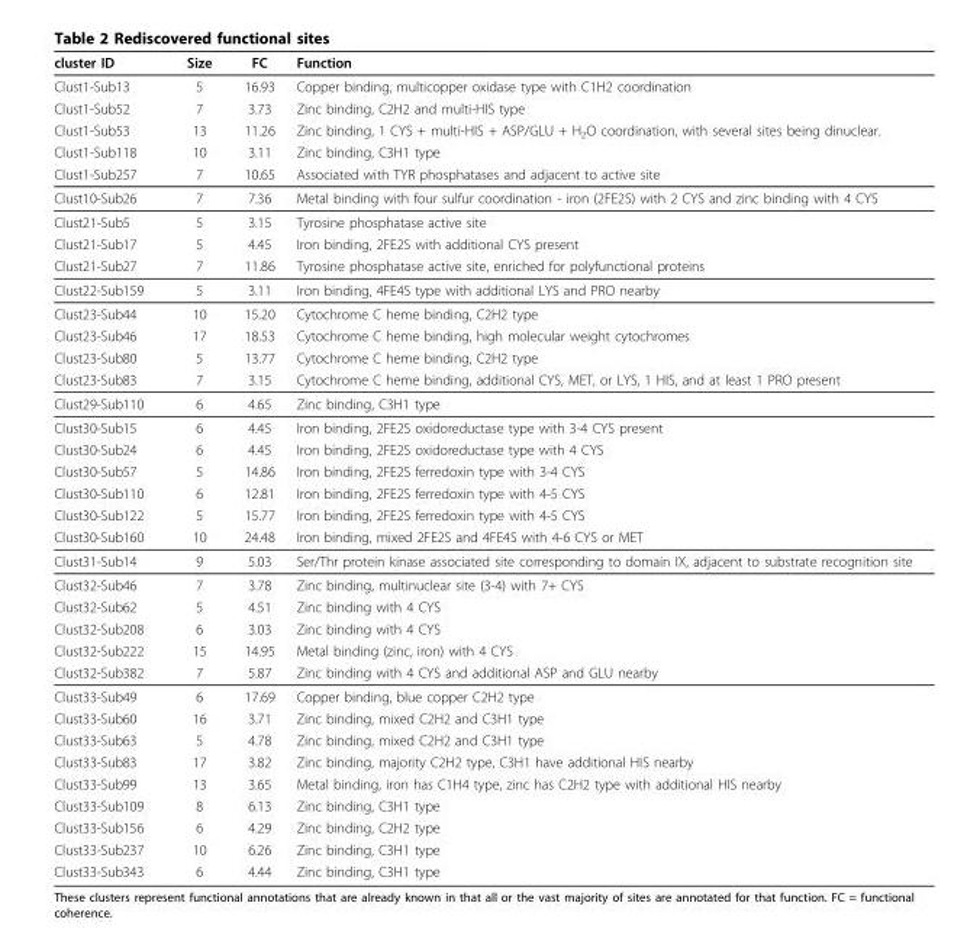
<table><thead><tr><td>cluster ID</td><td>Size</td><td>FC</td><td>Function</td></tr></thead><tbody><tr><td>Clust1-Sub13</td><td>5</td><td>16.93</td><td>Copper binding, multicopper oxidase type with C1H2 coordination</td></tr><tr><td>Clust1-Sub52</td><td>7</td><td>3.73</td><td>Zinc binding, C2H2 and multi-HIS type</td></tr><tr><td>Clust1-Sub53</td><td>13</td><td>11.26</td><td>Zinc binding, 1 CYS + multi-HIS + ASP/GLU + H<sub>2</sub>O coordination, with several sites being dinuclear.</td></tr><tr><td>Clust1-Sub118</td><td>10</td><td>3.11</td><td>Zinc binding, C3H1 type</td></tr><tr><td>Clust1-Sub257</td><td>7</td><td>10.65</td><td>Associated with TYR phosphatases and adjacent to active site</td></tr><tr><td>Clust10-Sub26</td><td>7</td><td>7.36</td><td>Metal binding with four sulfur coordination - iron (2FE2S) with 2 CYS and zinc binding with 4 CYS</td></tr><tr><td>Clust21-Sub5</td><td>5</td><td>3.15</td><td>Tyrosine phosphatase active site</td></tr><tr><td>Clust21-Sub17</td><td>5</td><td>4.45</td><td>Iron binding, 2FE2S with additional CYS present</td></tr><tr><td>Clust21-Sub27</td><td>7</td><td>11.86</td><td>Tyrosine phosphatase active site, enriched for polyfunctional proteins</td></tr><tr><td>Clust22-Sub159</td><td>5</td><td>3.11</td><td>Iron binding, 4FE4S type with additional LYS and PRO nearby</td></tr><tr><td>Clust23-Sub44</td><td>10</td><td>15.20</td><td>Cytochrome C heme binding, C2H2 type</td></tr><tr><td>Clust23-Sub46</td><td>17</td><td>18.53</td><td>Cytochrome C heme binding, high molecular weight cytochromes</td></tr><tr><td>Clust23-Sub80</td><td>5</td><td>13.77</td><td>Cytochrome C heme binding, C2H2 type</td></tr><tr><td>Clust23-Sub83</td><td>7</td><td>3.15</td><td>Cytochrome C heme binding, additional CYS, MET, or LYS, 1 HIS, and at least 1 PRO present</td></tr><tr><td>Clust29-Sub110</td><td>6</td><td>4.65</td><td>Zinc binding, C3H1 type</td></tr><tr><td>Clust30-Sub15</td><td>6</td><td>4.45</td><td>Iron binding, 2FE2S oxidoreductase type with 3-4 CYS present</td></tr><tr><td>Clust30-Sub24</td><td>6</td><td>4.45</td><td>Iron binding, 2FE2S oxidoreductase type with 4 CYS</td></tr><tr><td>Clust30-Sub57</td><td>5</td><td>14.86</td><td>Iron binding, 2FE2S ferredoxin type with 3-4 CYS</td></tr><tr><td>Clust30-Sub110</td><td>6</td><td>12.81</td><td>Iron binding, 2FE2S ferredoxin type with 4-5 CYS</td></tr><tr><td>Clust30-Sub122</td><td>5</td><td>15.77</td><td>Iron binding, 2FE2S ferredoxin type with 4-5 CYS</td></tr><tr><td>Clust30-Sub160</td><td>10</td><td>24.48</td><td>Iron binding, mixed 2FE2S and 4FE4S with 4-6 CYS or MET</td></tr><tr><td>Clust31-Sub14</td><td>9</td><td>5.03</td><td>Ser/Thr protein kinase associated site corresponding to domain IX, adjacent to substrate recognition site</td></tr><tr><td>Clust32-Sub46</td><td>7</td><td>3.78</td><td>Zinc binding, multinuclear site (3-4) with 7+ CYS</td></tr><tr><td>Clust32-Sub62</td><td>5</td><td>4.51</td><td>Zinc binding with 4 CYS</td></tr><tr><td>Clust32-Sub208</td><td>6</td><td>3.03</td><td>Zinc binding with 4 CYS</td></tr><tr><td>Clust32-Sub222</td><td>15</td><td>14.95</td><td>Metal binding (zinc, iron) with 4 CYS</td></tr><tr><td>Clust32-Sub382</td><td>7</td><td>5.87</td><td>Zinc binding with 4 CYS and additional ASP and GLU nearby</td></tr><tr><td>Clust33-Sub49</td><td>6</td><td>17.69</td><td>Copper binding, blue copper C2H2 type</td></tr><tr><td>Clust33-Sub60</td><td>16</td><td>3.71</td><td>Zinc binding, mixed C2H2 and C3H1 type</td></tr><tr><td>Clust33-Sub63</td><td>5</td><td>4.78</td><td>Zinc binding, mixed C2H2 and C3H1 type</td></tr><tr><td>Clust33-Sub83</td><td>17</td><td>3.82</td><td>Zinc binding, majority C2H2 type, C3H1 have additional HIS nearby</td></tr><tr><td>Clust33-Sub99</td><td>13</td><td>3.65</td><td>Metal binding, iron has C1H4 type, zinc has C2H2 type with additional HIS nearby</td></tr><tr><td>Clust33-Sub109</td><td>8</td><td>6.13</td><td>Zinc binding, C3H1 type</td></tr><tr><td>Clust33-Sub156</td><td>6</td><td>4.29</td><td>Zinc binding, C2H2 type</td></tr><tr><td>Clust33-Sub237</td><td>10</td><td>6.26</td><td>Zinc binding, C3H1 type</td></tr><tr><td>Clust33-Sub343</td><td>6</td><td>4.44</td><td>Zinc binding, C3H1 type</td></tr></tbody></table>